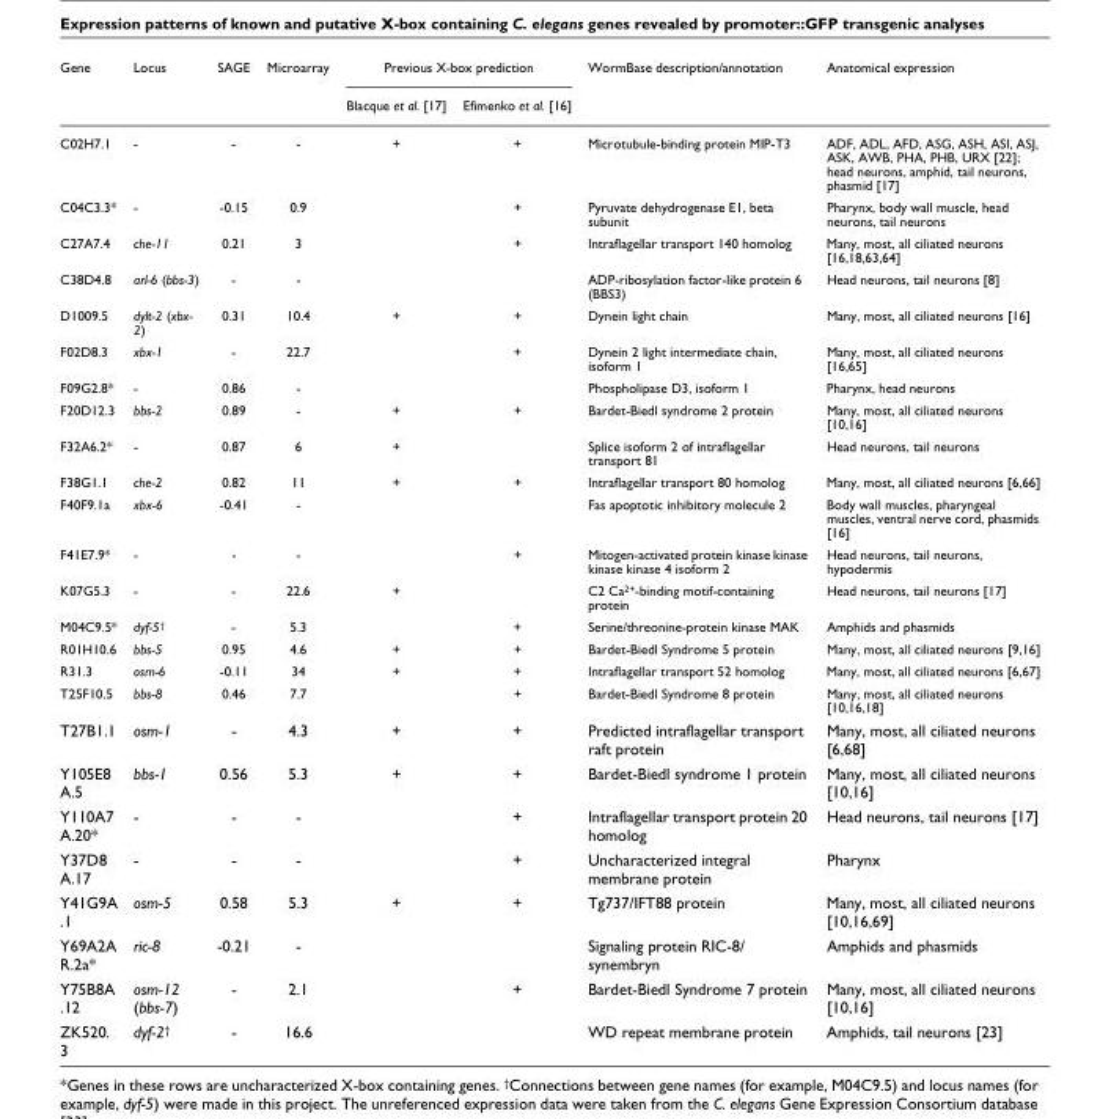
<table><thead><tr><td rowspan="2">Gene</td><td rowspan="2">Locus</td><td rowspan="2">SAGE</td><td rowspan="2">Microarray</td><td colspan="2">Previous X-box prediction</td><td rowspan="2">WormBase description/annotation</td><td rowspan="2">Anatomical expression</td></tr><tr><td>Blacque et al. [17]</td><td>Efimenko et al. [16]</td></tr></thead><tbody><tr><td>C02H7.1</td><td>-</td><td>-</td><td>-</td><td>+</td><td>+</td><td>Microtubule-binding protein MIP-T3</td><td>ADF, ADL, AFD, ASG, ASH, ASI, ASJ, ASK, AWB, PHA, PHB, URX [22]; head neurons, amphid, tail neurons, phasmid [17]</td></tr><tr><td>C04C3.3*</td><td>-</td><td>-0.15</td><td>0.9</td><td></td><td>+</td><td>Pyruvate dehydrogenase E1, beta subunit</td><td>Pharynx, body wall muscle, head neurons, tail neurons</td></tr><tr><td>C27A7.4</td><td>che-11</td><td>0.21</td><td>3</td><td></td><td>+</td><td>Intraflagellar transport 140 homolog</td><td>Many, most, all ciliated neurons [16,18,63,64]</td></tr><tr><td>C38D4.8</td><td>arl-6 (bbs-3)</td><td>-</td><td>-</td><td></td><td></td><td>ADP-ribosylation factor-like protein 6 (BBS3)</td><td>Head neurons, tail neurons [8]</td></tr><tr><td>D1009.5</td><td>dylt-2 (xbx- 2)</td><td>0.31</td><td>10.4</td><td>+</td><td>+</td><td>Dynein light chain</td><td>Many, most, all ciliated neurons [16]</td></tr><tr><td>F02D8.3</td><td>xbx-1</td><td>-</td><td>22.7</td><td></td><td>+</td><td>Dynein 2 light intermediate chain, isoform 1</td><td>Many, most, all ciliated neurons [16,65]</td></tr><tr><td>F09G2.8*</td><td>-</td><td>0.86</td><td>-</td><td></td><td></td><td>Phospholipase D3, isoform 1</td><td>Pharynx, head neurons</td></tr><tr><td>F20D12.3</td><td>bbs-2</td><td>0.89</td><td>-</td><td>+</td><td>+</td><td>Bardet-Biedl syndrome 2 protein</td><td>Many, most, all ciliated neurons [10,16]</td></tr><tr><td>F32A6.2*</td><td>-</td><td>0.87</td><td>6</td><td>+</td><td></td><td>Splice isoform 2 of intraflagellar transport 81</td><td>Head neurons, tail neurons</td></tr><tr><td>F38G1.1</td><td>che-2</td><td>0.82</td><td>11</td><td>+</td><td>+</td><td>Intraflagellar transport 80 homolog</td><td>Many, most, all ciliated neurons [6,66]</td></tr><tr><td>F40F9.1a</td><td>xbx-6</td><td>-0.41</td><td>-</td><td></td><td></td><td>Fas apoptotic inhibitory molecule 2</td><td>Body wall muscles, pharyngeal muscles, ventral nerve cord, phasmids [16]</td></tr><tr><td>F41E7.9*</td><td>-</td><td>-</td><td>-</td><td></td><td>+</td><td>Mitogen-activated protein kinase kinase kinase kinase 4 isoform 2</td><td>Head neurons, tail neurons, hypodermis</td></tr><tr><td>K07G5.3</td><td>-</td><td>-</td><td>22.6</td><td>+</td><td></td><td>C2 Ca2+-binding motif-containing protein</td><td>Head neurons, tail neurons [17]</td></tr><tr><td>M04C9.5*</td><td>dyf-5†</td><td>-</td><td>5.3</td><td></td><td>+</td><td>Serine/threonine-protein kinase MAK</td><td>Amphids and phasmids</td></tr><tr><td>R01H10.6</td><td>bbs-5</td><td>0.95</td><td>4.6</td><td>+</td><td>+</td><td>Bardet-Biedl Syndrome 5 protein</td><td>Many, most, all ciliated neurons [9,16]</td></tr><tr><td>R31.3</td><td>osm-6</td><td>-0.11</td><td>34</td><td>+</td><td>+</td><td>Intraflagellar transport 52 homolog</td><td>Many, most, all ciliated neurons [6,67]</td></tr><tr><td>T25F10.5</td><td>bbs-8</td><td>0.46</td><td>7.7</td><td></td><td>+</td><td>Bardet-Biedl Syndrome 8 protein</td><td>Many, most, all ciliated neurons [10,16,18]</td></tr><tr><td>T27B1.1</td><td>osm-1</td><td>-</td><td>4.3</td><td>+</td><td>+</td><td>Predicted intraflagellar transport raft protein</td><td>Many, most, all ciliated neurons [6,68]</td></tr><tr><td>Y105E8 A.5</td><td>bbs-1</td><td>0.56</td><td>5.3</td><td>+</td><td>+</td><td>Bardet-Biedl syndrome 1 protein</td><td>Many, most, all ciliated neurons [10,16]</td></tr><tr><td>Y110A7 A.20*</td><td>-</td><td>-</td><td>-</td><td></td><td>+</td><td>Intraflagellar transport protein 20 homolog</td><td>Head neurons, tail neurons [17]</td></tr><tr><td>Y37D8 A.17</td><td>-</td><td>-</td><td>-</td><td></td><td>+</td><td>Uncharacterized integral membrane protein</td><td>Pharynx</td></tr><tr><td>Y41G9A .1</td><td>osm-5</td><td>0.58</td><td>5.3</td><td>+</td><td>+</td><td>Tg737/IFT88 protein</td><td>Many, most, all ciliated neurons [10,16,69]</td></tr><tr><td>Y69A2A R.2a*</td><td>ric-8</td><td>-0.21</td><td>-</td><td></td><td></td><td>Signaling protein RIC-8/ synembryn</td><td>Amphids and phasmids</td></tr><tr><td>Y75B8A .12</td><td>osm-12 (bbs-7)</td><td>-</td><td>2.1</td><td></td><td>+</td><td>Bardet-Biedl Syndrome 7 protein</td><td>Many, most, all ciliated neurons [10,16]</td></tr><tr><td>ZK520. 3</td><td>dyf-2†</td><td>-</td><td>16.6</td><td></td><td></td><td>WD repeat membrane protein</td><td>Amphids, tail neurons [23]</td></tr></tbody></table>